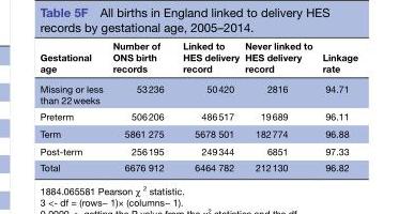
<table><thead><tr><td>Gestational age</td><td>Number of ONS birth records</td><td>Linked to HES delivery record</td><td>Never linked to HES delivery record</td><td>Linkage rate</td></tr></thead><tbody><tr><td>Missing or less than 22 weeks</td><td>53 236</td><td>50 420</td><td>2816</td><td>94.71</td></tr><tr><td>Preterm</td><td>506 206</td><td>486 517</td><td>19 689</td><td>96.11</td></tr><tr><td>Term</td><td>5861 275</td><td>5678 501</td><td>182 774</td><td>96.88</td></tr><tr><td>Post-term</td><td>256 195</td><td>249 344</td><td>6851</td><td>97.33</td></tr><tr><td>Total</td><td>6676 912</td><td>6464 782</td><td>212 130</td><td>96.82</td></tr></tbody></table>